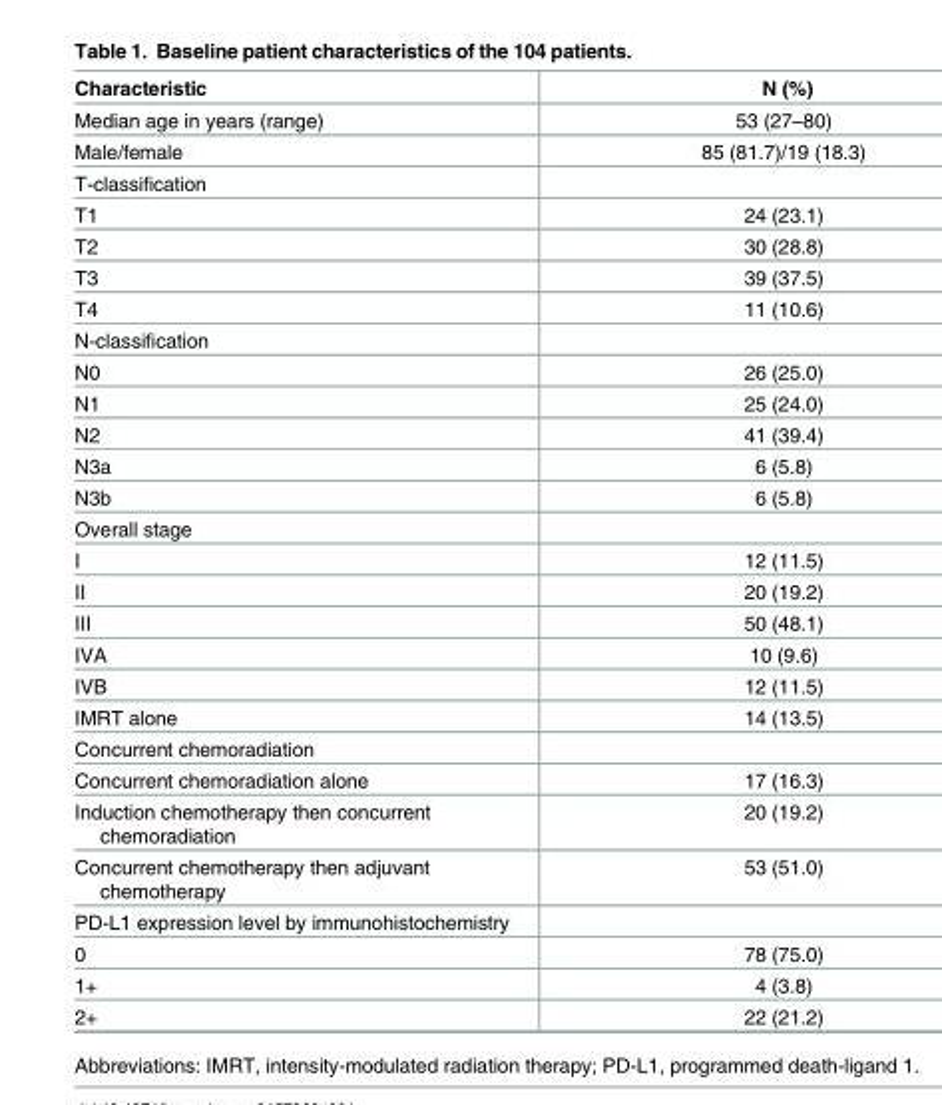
<table><thead><tr><td>Characteristic</td><td>N (%)</td></tr></thead><tbody><tr><td>Median age in years (range)</td><td>53 (27–80)</td></tr><tr><td>Male/female</td><td>85 (81.7)/19 (18.3)</td></tr><tr><td colspan="2">T-classification</td></tr><tr><td>T1</td><td>24 (23.1)</td></tr><tr><td>T2</td><td>30 (28.8)</td></tr><tr><td>T3</td><td>39 (37.5)</td></tr><tr><td>T4</td><td>11 (10.6)</td></tr><tr><td colspan="2">N-classification</td></tr><tr><td>N0</td><td>26 (25.0)</td></tr><tr><td>N1</td><td>25 (24.0)</td></tr><tr><td>N2</td><td>41 (39.4)</td></tr><tr><td>N3a</td><td>6 (5.8)</td></tr><tr><td>N3b</td><td>6 (5.8)</td></tr><tr><td colspan="2">Overall stage</td></tr><tr><td>I</td><td>12 (11.5)</td></tr><tr><td>II</td><td>20 (19.2)</td></tr><tr><td>III</td><td>50 (48.1)</td></tr><tr><td>IVA</td><td>10 (9.6)</td></tr><tr><td>IVB</td><td>12 (11.5)</td></tr><tr><td>IMRT alone</td><td>14 (13.5)</td></tr><tr><td colspan="2">Concurrent chemoradiation</td></tr><tr><td>Concurrent chemoradiation alone</td><td>17 (16.3)</td></tr><tr><td>Induction chemotherapy then concurrent chemoradiation</td><td>20 (19.2)</td></tr><tr><td>Concurrent chemotherapy then adjuvant chemotherapy</td><td>53 (51.0)</td></tr><tr><td colspan="2">PD-L1 expression level by immunohistochemistry</td></tr><tr><td>0</td><td>78 (75.0)</td></tr><tr><td>1+</td><td>4 (3.8)</td></tr><tr><td>2+</td><td>22 (21.2)</td></tr></tbody></table>